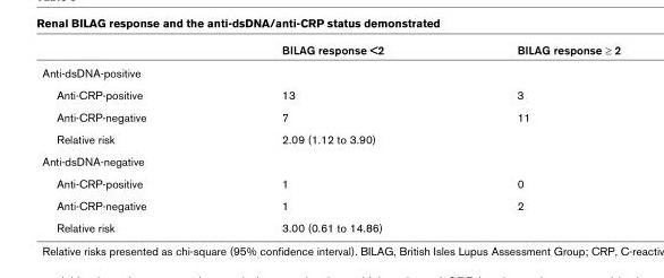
<table><thead><tr><td></td><td>BILAG response &lt;2</td><td>BILAG response ≥ 2</td></tr></thead><tbody><tr><td colspan="3">Anti-dsDNA-positive</td></tr><tr><td>Anti-CRP-positive</td><td>13</td><td>3</td></tr><tr><td>Anti-CRP-negative</td><td>7</td><td>11</td></tr><tr><td>Relative risk</td><td>2.09 (1.12 to 3.90)</td><td></td></tr><tr><td colspan="3">Anti-dsDNA-negative</td></tr><tr><td>Anti-CRP-positive</td><td>1</td><td>0</td></tr><tr><td>Anti-CRP-negative</td><td>1</td><td>2</td></tr><tr><td>Relative risk</td><td>3.00 (0.61 to 14.86)</td><td></td></tr></tbody></table>